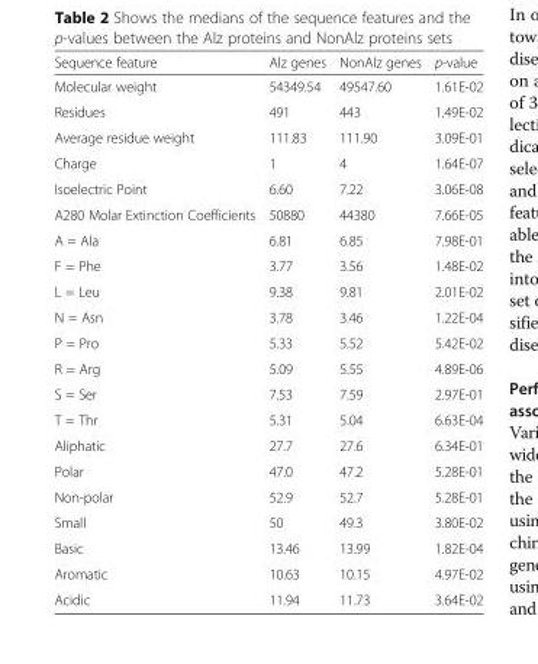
<table><thead><tr><td>Sequence feature</td><td>Alz genes</td><td>NonAlz genes</td><td>p-value</td></tr></thead><tbody><tr><td>Molecular weight</td><td>54349.54</td><td>49547.60</td><td>1.61E-02</td></tr><tr><td>Residues</td><td>491</td><td>443</td><td>1.49E-02</td></tr><tr><td>Average residue weight</td><td>111.83</td><td>111.90</td><td>3.09E-01</td></tr><tr><td>Charge</td><td>1</td><td>4</td><td>1.64E-07</td></tr><tr><td>Isoelectric Point</td><td>6.60</td><td>7.22</td><td>3.06E-08</td></tr><tr><td>A280 Molar Extinction Coefficients</td><td>50880</td><td>44380</td><td>7.66E-05</td></tr><tr><td>A = Ala</td><td>6.81</td><td>6.85</td><td>7.98E-01</td></tr><tr><td>F = Phe</td><td>3.77</td><td>3.56</td><td>1.48E-02</td></tr><tr><td>L = Leu</td><td>9.38</td><td>9.81</td><td>2.01E-02</td></tr><tr><td>N = Asn</td><td>3.78</td><td>3.46</td><td>1.22E-04</td></tr><tr><td>P = Pro</td><td>5.33</td><td>5.52</td><td>5.42E-02</td></tr><tr><td>R = Arg</td><td>5.09</td><td>5.55</td><td>4.89E-06</td></tr><tr><td>S = Ser</td><td>7.53</td><td>7.59</td><td>2.97E-01</td></tr><tr><td>T = Thr</td><td>5.31</td><td>5.04</td><td>6.63E-04</td></tr><tr><td>Aliphatic</td><td>27.7</td><td>27.6</td><td>6.34E-01</td></tr><tr><td>Polar</td><td>47.0</td><td>47.2</td><td>5.28E-01</td></tr><tr><td>Non-polar</td><td>52.9</td><td>52.7</td><td>5.28E-01</td></tr><tr><td>Small</td><td>50</td><td>49.3</td><td>3.80E-02</td></tr><tr><td>Basic</td><td>13.46</td><td>13.99</td><td>1.82E-04</td></tr><tr><td>Aromatic</td><td>10.63</td><td>10.15</td><td>4.97E-02</td></tr><tr><td>Acidic</td><td>11.94</td><td>11.73</td><td>3.64E-02</td></tr></tbody></table>